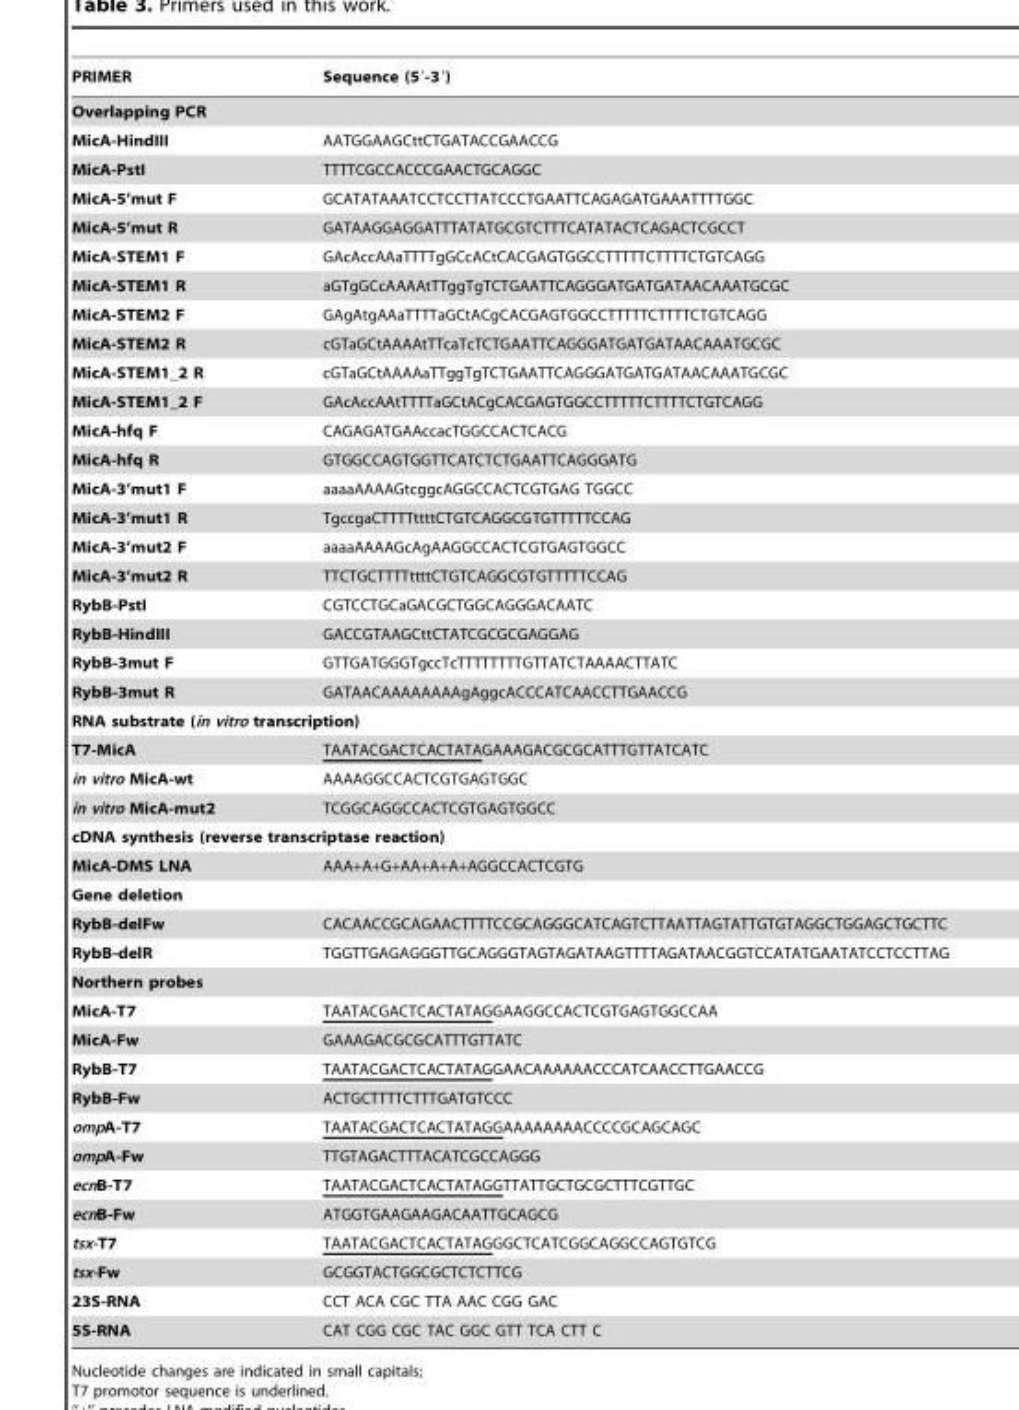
<table><thead><tr><td>PRIMER</td><td>Sequence (5′-3′)</td></tr></thead><tbody><tr><td colspan="2">Overlapping PCR</td></tr><tr><td>MicA-HindIII</td><td>AATGGAAGCttCTGATACCGAACCG</td></tr><tr><td>MicA-PstI</td><td>TTTTCGCCACCCGAACTGCAGGC</td></tr><tr><td>MicA-5’mut F</td><td>GCATATAAATCCTCCTTATCCCTGAATTCAGAGATGAAATTTTGGC</td></tr><tr><td>MicA-5’mut R</td><td>GATAAGGAGGATTTATATGCGTCTTTCATATACTCAGACTCGCCT</td></tr><tr><td>MicA-STEM1 F</td><td>GAcAccAAaTTTTgGCcACtCACGAGTGGCCTTTTTCTTTTCTGTCAGG</td></tr><tr><td>MicA-STEM1 R</td><td>aGTgGCcAAAAtTTggTgTCTGAATTCAGGGATGATGATAACAAATGCGC</td></tr><tr><td>MicA-STEM2 F</td><td>GAgAtgAAaTTTTaGCtACgCACGAGTGGCCTTTTTCTTTTCTGTCAGG</td></tr><tr><td>MicA-STEM2 R</td><td>cGTaGCtAAAAtTTcaTcTCTGAATTCAGGGATGATGATAACAAATGCGC</td></tr><tr><td>MicA-STEM1_2 R</td><td>cGTaGCtAAAAaTTggTgTCTGAATTCAGGGATGATGATAACAAATGCGC</td></tr><tr><td>MicA-STEM1_2 F</td><td>GAcAccAAtTTTTaGCtACgCACGAGTGGCCTTTTTCTTTTCTGTCAGG</td></tr><tr><td>MicA-hfq F</td><td>CAGAGATGAAccacTGGCCACTCACG</td></tr><tr><td>MicA-hfq R</td><td>GTGGCCAGTGGTTCATCTCTGAATTCAGGGATG</td></tr><tr><td>MicA-3’mut1 F</td><td>aaaaAAAAGtcggcAGGCCACTCGTGAG TGGCC</td></tr><tr><td>MicA-3’mut1 R</td><td>TgccgaCTTTTttttCTGTCAGGCGTGTTTTTCCAG</td></tr><tr><td>MicA-3’mut2 F</td><td>aaaaAAAAGcAgAAGGCCACTCGTGAGTGGCC</td></tr><tr><td>MicA-3’mut2 R</td><td>TTCTGCTTTTttttCTGTCAGGCGTGTTTTTCCAG</td></tr><tr><td>RybB-PstI</td><td>CGTCCTGCaGACGCTGGCAGGGACAATC</td></tr><tr><td>RybB-HindIII</td><td>GACCGTAAGCttCTATCGCGCGAGGAG</td></tr><tr><td>RybB-3mut F</td><td>GTTGATGGGTgccTcTTTTTTTTGTTATCTAAAACTTATC</td></tr><tr><td>RybB-3mut R</td><td>GATAACAAAAAAAAgAggcACCCATCAACCTTGAACCG</td></tr><tr><td colspan="2">RNA substrate (in vitro transcription)</td></tr><tr><td>T7-MicA</td><td>TAATACGACTCACTATAGAAAGACGCGCATTTGTTATCATC</td></tr><tr><td>in vitro MicA-wt</td><td>AAAAGGCCACTCGTGAGTGGC</td></tr><tr><td>in vitro MicA-mut2</td><td>TCGGCAGGCCACTCGTGAGTGGCC</td></tr><tr><td colspan="2">cDNA synthesis (reverse transcriptase reaction)</td></tr><tr><td>MicA-DMS LNA</td><td>AAA+A+G+AA+A+A+AGGCCACTCGTG</td></tr><tr><td colspan="2">Gene deletion</td></tr><tr><td>RybB-delFw</td><td>CACAACCGCAGAACTTTTCCGCAGGGCATCAGTCTTAATTAGTATTGTGTAGGCTGGAGCTGCTTC</td></tr><tr><td>RybB-delR</td><td>TGGTTGAGAGGGTTGCAGGGTAGTAGATAAGTTTTAGATAACGGTCCATATGAATATCCTCCTTAG</td></tr><tr><td colspan="2">Northern probes</td></tr><tr><td>MicA-T7</td><td>TAATACGACTCACTATAGGAAGGCCACTCGTGAGTGGCCAA</td></tr><tr><td>MicA-Fw</td><td>GAAAGACGCGCATTTGTTATC</td></tr><tr><td>RybB-T7</td><td>TAATACGACTCACTATAGGAACAAAAAACCCATCAACCTTGAACCG</td></tr><tr><td>RybB-Fw</td><td>ACTGCTTTTCTTTGATGTCCC</td></tr><tr><td>ompA-T7</td><td>TAATACGACTCACTATAGGAAAAAAAACCCCGCAGCAGC</td></tr><tr><td>ompA-Fw</td><td>TTGTAGACTTTACATCGCCAGGG</td></tr><tr><td>ecnB-T7</td><td>TAATACGACTCACTATAGGTTATTGCTGCGCTTTCGTTGC</td></tr><tr><td>ecnB-Fw</td><td>ATGGTGAAGAAGACAATTGCAGCG</td></tr><tr><td>tsx-T7</td><td>TAATACGACTCACTATAGGGCTCATCGGCAGGCCAGTGTCG</td></tr><tr><td>tsx-Fw</td><td>GCGGTACTGGCGCTCTCTTCG</td></tr><tr><td>23S-RNA</td><td>CCT ACA CGC TTA AAC CGG GAC</td></tr><tr><td>5S-RNA</td><td>CAT CGG CGC TAC GGC GTT TCA CTT C</td></tr></tbody></table>